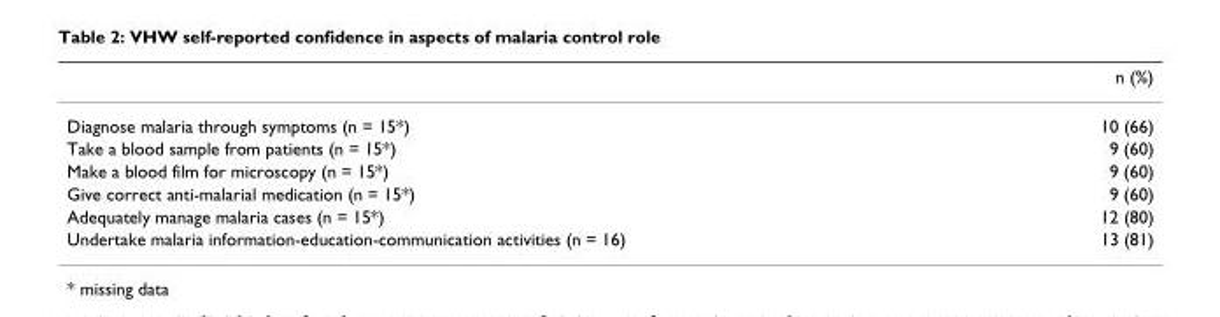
<table><thead><tr><td></td><td>n (%)</td></tr></thead><tbody><tr><td>Diagnose malaria through symptoms (n = 15*)</td><td>10 (66)</td></tr><tr><td>Take a blood sample from patients (n = 15*)</td><td>9 (60)</td></tr><tr><td>Make a blood film for microscopy (n = 15*)</td><td>9 (60)</td></tr><tr><td>Give correct anti-malarial medication (n = 15*)</td><td>9 (60)</td></tr><tr><td>Adequately manage malaria cases (n = 15*)</td><td>12 (80)</td></tr><tr><td>Undertake malaria information-education-communication activities (n = 16)</td><td>13 (81)</td></tr></tbody></table>